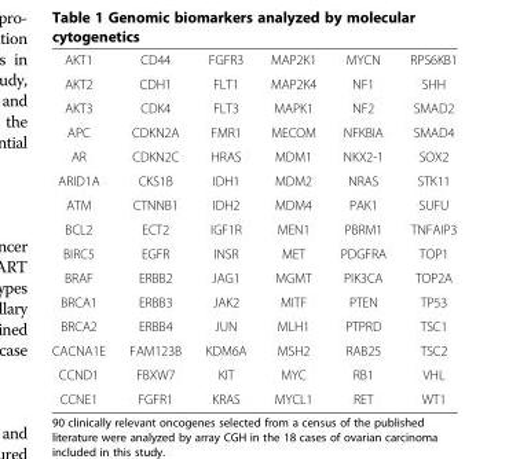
<table><tbody><tr><td>AKT1</td><td>CD44</td><td>FGFR3</td><td>MAP2K1</td><td>MYCN</td><td>RPS6KB1</td></tr><tr><td>AKT2</td><td>CDH1</td><td>FLT1</td><td>MAP2K4</td><td>NF1</td><td>SHH</td></tr><tr><td>AKT3</td><td>CDK4</td><td>FLT3</td><td>MAPK1</td><td>NF2</td><td>SMAD2</td></tr><tr><td>APC</td><td>CDKN2A</td><td>FMR1</td><td>MECOM</td><td>NFKBIA</td><td>SMAD4</td></tr><tr><td>AR</td><td>CDKN2C</td><td>HRAS</td><td>MDM1</td><td>NKX2-1</td><td>SOX2</td></tr><tr><td>ARID1A</td><td>CKS1B</td><td>IDH1</td><td>MDM2</td><td>NRAS</td><td>STK11</td></tr><tr><td>ATM</td><td>CTNNB1</td><td>IDH2</td><td>MDM4</td><td>PAK1</td><td>SUFU</td></tr><tr><td>BCL2</td><td>ECT2</td><td>IGF1R</td><td>MEN1</td><td>PBRM1</td><td>TNFAIP3</td></tr><tr><td>BIRC5</td><td>EGFR</td><td>INSR</td><td>MET</td><td>PDGFRA</td><td>TOP1</td></tr><tr><td>BRAF</td><td>ERBB2</td><td>JAG1</td><td>MGMT</td><td>PIK3CA</td><td>TOP2A</td></tr><tr><td>BRCA1</td><td>ERBB3</td><td>JAK2</td><td>MITF</td><td>PTEN</td><td>TP53</td></tr><tr><td>BRCA2</td><td>ERBB4</td><td>JUN</td><td>MLH1</td><td>PTPRD</td><td>TSC1</td></tr><tr><td>CACNA1E</td><td>FAM123B</td><td>KDM6A</td><td>MSH2</td><td>RAB25</td><td>TSC2</td></tr><tr><td>CCND1</td><td>FBXW7</td><td>KIT</td><td>MYC</td><td>RB1</td><td>VHL</td></tr><tr><td>CCNE1</td><td>FGFR1</td><td>KRAS</td><td>MYCL1</td><td>RET</td><td>WT1</td></tr></tbody></table>